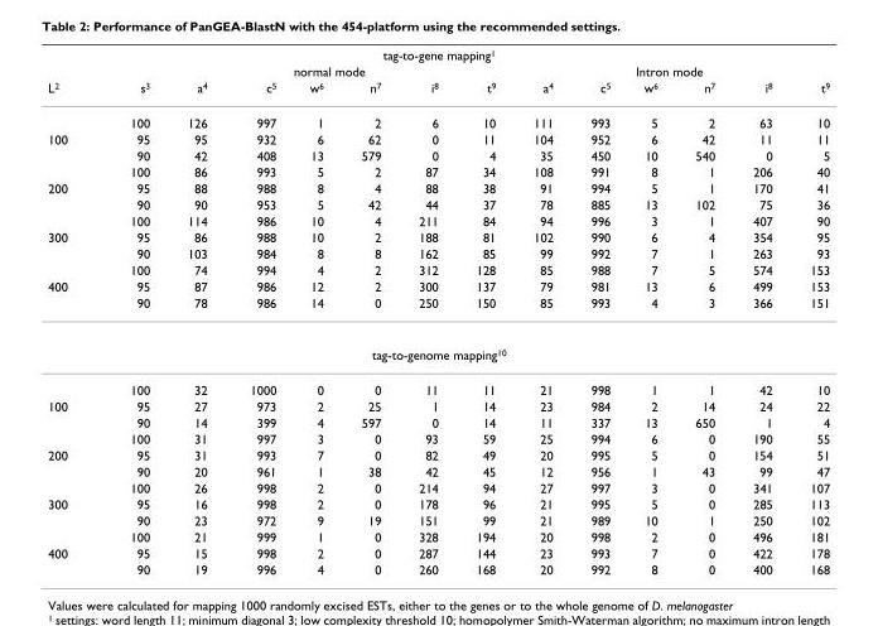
<table><thead><tr><td colspan="14">tag-to-gene mapping<sup>1</sup></td></tr><tr><td rowspan="2">L<sup>2</sup></td><td rowspan="2">s<sup>3</sup></td><td colspan="6">normal mode</td><td colspan="6">Intron mode</td></tr><tr><td>a<sup>4</sup></td><td>c<sup>5</sup></td><td>w<sup>6</sup></td><td>n<sup>7</sup></td><td>i<sup>8</sup></td><td>t<sup>9</sup></td><td>a<sup>4</sup></td><td>c<sup>5</sup></td><td>w<sup>6</sup></td><td>n<sup>7</sup></td><td>i<sup>8</sup></td><td>t<sup>9</sup></td></tr></thead><tbody><tr><td></td><td>100</td><td>126</td><td>997</td><td>1</td><td>2</td><td>6</td><td>10</td><td>111</td><td>993</td><td>5</td><td>2</td><td>63</td><td>10</td></tr><tr><td rowspan="3">100</td><td>95</td><td>95</td><td>932</td><td>6</td><td>62</td><td>0</td><td>11</td><td>104</td><td>952</td><td>6</td><td>42</td><td>11</td><td>11</td></tr><tr><td>90</td><td>42</td><td>408</td><td>13</td><td>579</td><td>0</td><td>4</td><td>35</td><td>450</td><td>10</td><td>540</td><td>0</td><td>5</td></tr><tr><td>100</td><td>86</td><td>993</td><td>5</td><td>2</td><td>87</td><td>34</td><td>108</td><td>991</td><td>8</td><td>1</td><td>206</td><td>40</td></tr><tr><td rowspan="3">200</td><td>95</td><td>88</td><td>988</td><td>8</td><td>4</td><td>88</td><td>38</td><td>91</td><td>994</td><td>5</td><td>1</td><td>170</td><td>41</td></tr><tr><td>90</td><td>90</td><td>953</td><td>5</td><td>42</td><td>44</td><td>37</td><td>78</td><td>885</td><td>13</td><td>102</td><td>75</td><td>36</td></tr><tr><td>100</td><td>114</td><td>986</td><td>10</td><td>4</td><td>211</td><td>84</td><td>94</td><td>996</td><td>3</td><td>1</td><td>407</td><td>90</td></tr><tr><td rowspan="3">300</td><td>95</td><td>86</td><td>988</td><td>10</td><td>2</td><td>188</td><td>81</td><td>102</td><td>990</td><td>6</td><td>4</td><td>354</td><td>95</td></tr><tr><td>90</td><td>103</td><td>984</td><td>8</td><td>8</td><td>162</td><td>85</td><td>99</td><td>992</td><td>7</td><td>1</td><td>263</td><td>93</td></tr><tr><td>100</td><td>74</td><td>994</td><td>4</td><td>2</td><td>312</td><td>128</td><td>85</td><td>988</td><td>7</td><td>5</td><td>574</td><td>153</td></tr><tr><td rowspan="2">400</td><td>95</td><td>87</td><td>986</td><td>12</td><td>2</td><td>300</td><td>137</td><td>79</td><td>981</td><td>13</td><td>6</td><td>499</td><td>153</td></tr><tr><td>90</td><td>78</td><td>986</td><td>14</td><td>0</td><td>250</td><td>150</td><td>85</td><td>993</td><td>4</td><td>3</td><td>366</td><td>151</td></tr><tr><td colspan="14">tag-to-genome mapping<sup>10</sup></td></tr><tr><td></td><td>100</td><td>32</td><td>1000</td><td>0</td><td>0</td><td>11</td><td>11</td><td>21</td><td>998</td><td>1</td><td>1</td><td>42</td><td>10</td></tr><tr><td rowspan="3">100</td><td>95</td><td>27</td><td>973</td><td>2</td><td>25</td><td>1</td><td>14</td><td>23</td><td>984</td><td>2</td><td>14</td><td>24</td><td>22</td></tr><tr><td>90</td><td>14</td><td>399</td><td>4</td><td>597</td><td>0</td><td>14</td><td>11</td><td>337</td><td>13</td><td>650</td><td>1</td><td>4</td></tr><tr><td>100</td><td>31</td><td>997</td><td>3</td><td>0</td><td>93</td><td>59</td><td>25</td><td>994</td><td>6</td><td>0</td><td>190</td><td>55</td></tr><tr><td rowspan="3">200</td><td>95</td><td>31</td><td>993</td><td>7</td><td>0</td><td>82</td><td>49</td><td>20</td><td>995</td><td>5</td><td>0</td><td>154</td><td>51</td></tr><tr><td>90</td><td>20</td><td>961</td><td>1</td><td>38</td><td>42</td><td>45</td><td>12</td><td>956</td><td>1</td><td>43</td><td>99</td><td>47</td></tr><tr><td>100</td><td>26</td><td>998</td><td>2</td><td>0</td><td>214</td><td>94</td><td>27</td><td>997</td><td>3</td><td>0</td><td>341</td><td>107</td></tr><tr><td rowspan="3">300</td><td>95</td><td>16</td><td>998</td><td>2</td><td>0</td><td>178</td><td>96</td><td>21</td><td>995</td><td>5</td><td>0</td><td>285</td><td>113</td></tr><tr><td>90</td><td>23</td><td>972</td><td>9</td><td>19</td><td>151</td><td>99</td><td>21</td><td>989</td><td>10</td><td>1</td><td>250</td><td>102</td></tr><tr><td>100</td><td>21</td><td>999</td><td>1</td><td>0</td><td>328</td><td>194</td><td>20</td><td>998</td><td>2</td><td>0</td><td>496</td><td>181</td></tr><tr><td rowspan="2">400</td><td>95</td><td>15</td><td>998</td><td>2</td><td>0</td><td>287</td><td>144</td><td>23</td><td>993</td><td>7</td><td>0</td><td>422</td><td>178</td></tr><tr><td>90</td><td>19</td><td>996</td><td>4</td><td>0</td><td>260</td><td>168</td><td>20</td><td>992</td><td>8</td><td>0</td><td>400</td><td>168</td></tr></tbody></table>